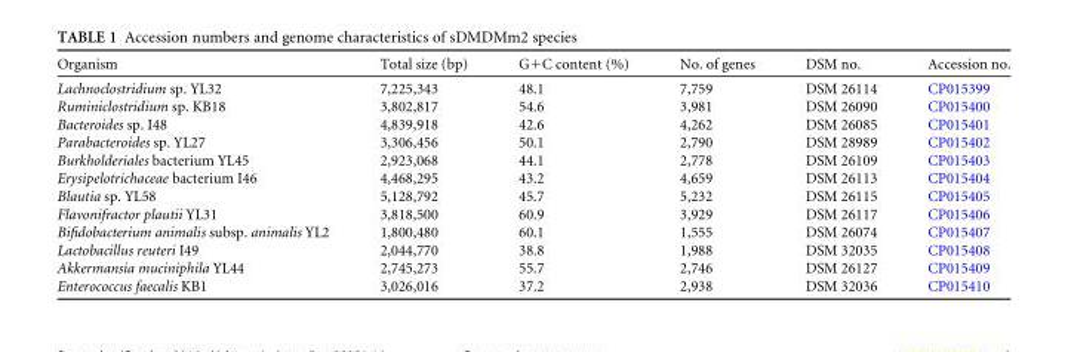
<table><thead><tr><td>Organism</td><td>Total size (bp)</td><td>G+C content (%)</td><td>No. of genes</td><td>DSM no.</td><td>Accession no.</td></tr></thead><tbody><tr><td>Lachnoclostridium sp. YL32</td><td>7,225,343</td><td>48.1</td><td>7,759</td><td>DSM 26114</td><td>CP015399</td></tr><tr><td>Ruminiclostridium sp. KB18</td><td>3,802,817</td><td>54.6</td><td>3,981</td><td>DSM 26090</td><td>CP015400</td></tr><tr><td>Bacteroides sp. I48</td><td>4,839,918</td><td>42.6</td><td>4,262</td><td>DSM 26085</td><td>CP015401</td></tr><tr><td>Parabacteroides sp. YL27</td><td>3,306,456</td><td>50.1</td><td>2,790</td><td>DSM 28989</td><td>CP015402</td></tr><tr><td>Burkholderiales bacterium YL45</td><td>2,923,068</td><td>44.1</td><td>2,778</td><td>DSM 26109</td><td>CP015403</td></tr><tr><td>Erysipelotrichaceae bacterium I46</td><td>4,468,295</td><td>43.2</td><td>4,659</td><td>DSM 26113</td><td>CP015404</td></tr><tr><td>Blautia sp. YL58</td><td>5,128,792</td><td>45.7</td><td>5,232</td><td>DSM 26115</td><td>CP015405</td></tr><tr><td>Flavonifractor plautii YL31</td><td>3,818,500</td><td>60.9</td><td>3,929</td><td>DSM 26117</td><td>CP015406</td></tr><tr><td>Bifidobacterium animalis subsp. animalis YL2</td><td>1,800,480</td><td>60.1</td><td>1,555</td><td>DSM 26074</td><td>CP015407</td></tr><tr><td>Lactobacillus reuteri I49</td><td>2,044,770</td><td>38.8</td><td>1,988</td><td>DSM 32035</td><td>CP015408</td></tr><tr><td>Akkermansia muciniphila YL44</td><td>2,745,273</td><td>55.7</td><td>2,746</td><td>DSM 26127</td><td>CP015409</td></tr><tr><td>Enterococcus faecalis KB1</td><td>3,026,016</td><td>37.2</td><td>2,938</td><td>DSM 32036</td><td>CP015410</td></tr></tbody></table>